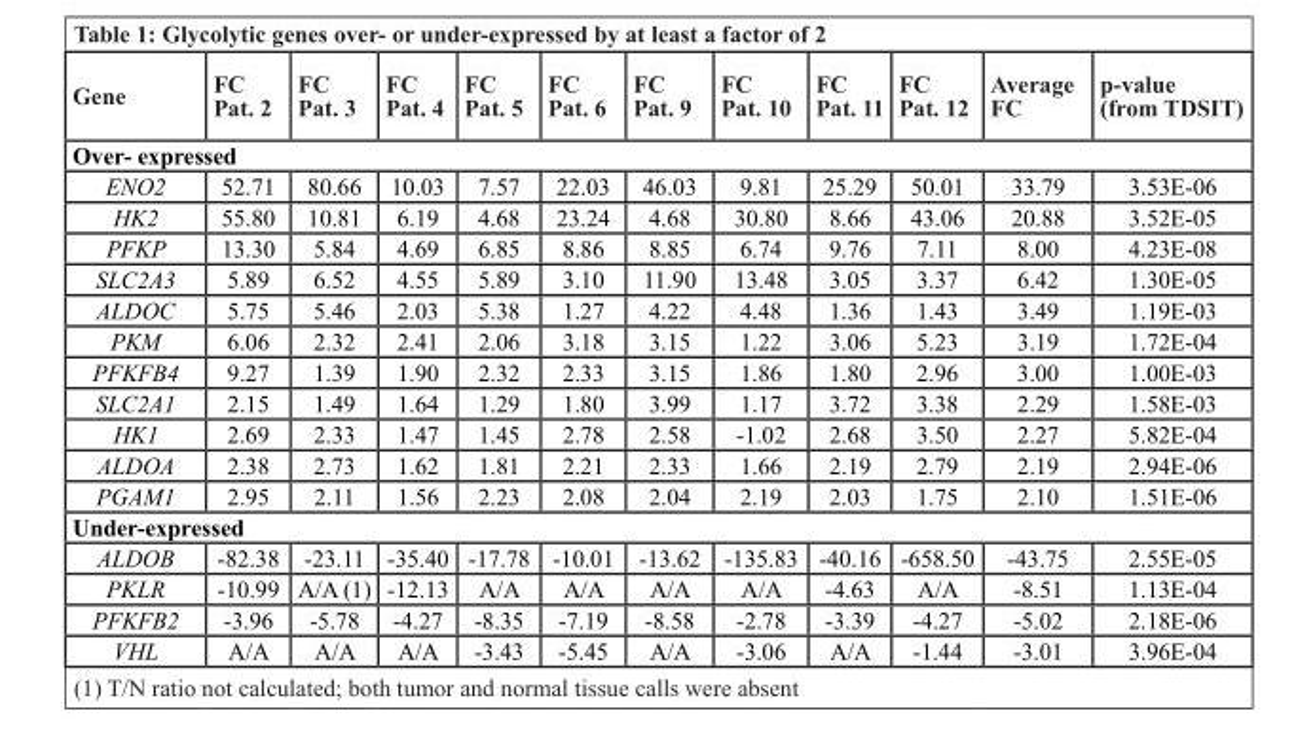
<table><thead><tr><td>Gene</td><td>FC Pat. 2</td><td>FC Pat. 3</td><td>FC Pat. 4</td><td>FC Pat. 5</td><td>FC Pat. 6</td><td>FC Pat. 9</td><td>FC Pat. 10</td><td>FC Pat. 11</td><td>FC Pat. 12</td><td>Average FC</td><td>p-value (from TDSIT)</td></tr></thead><tbody><tr><td colspan="12">Over- expressed</td></tr><tr><td>ENO2</td><td>52.71</td><td>80.66</td><td>10.03</td><td>7.57</td><td>22.03</td><td>46.03</td><td>9.81</td><td>25.29</td><td>50.01</td><td>33.79</td><td>3.53E-06</td></tr><tr><td>HK2</td><td>55.80</td><td>10.81</td><td>6.19</td><td>4.68</td><td>23.24</td><td>4.68</td><td>30.80</td><td>8.66</td><td>43.06</td><td>20.88</td><td>3.52E-05</td></tr><tr><td>PFKP</td><td>13.30</td><td>5.84</td><td>4.69</td><td>6.85</td><td>8.86</td><td>8.85</td><td>6.74</td><td>9.76</td><td>7.11</td><td>8.00</td><td>4.23E-08</td></tr><tr><td>SLC2A3</td><td>5.89</td><td>6.52</td><td>4.55</td><td>5.89</td><td>3.10</td><td>11.90</td><td>13.48</td><td>3.05</td><td>3.37</td><td>6.42</td><td>1.30E-05</td></tr><tr><td>ALDOC</td><td>5.75</td><td>5.46</td><td>2.03</td><td>5.38</td><td>1.27</td><td>4.22</td><td>4.48</td><td>1.36</td><td>1.43</td><td>3.49</td><td>1.19E-03</td></tr><tr><td>PKM</td><td>6.06</td><td>2.32</td><td>2.41</td><td>2.06</td><td>3.18</td><td>3.15</td><td>1.22</td><td>3.06</td><td>5.23</td><td>3.19</td><td>1.72E-04</td></tr><tr><td>PFKFB4</td><td>9.27</td><td>1.39</td><td>1.90</td><td>2.32</td><td>2.33</td><td>3.15</td><td>1.86</td><td>1.80</td><td>2.96</td><td>3.00</td><td>1.00E-03</td></tr><tr><td>SLC2A1</td><td>2.15</td><td>1.49</td><td>1.64</td><td>1.29</td><td>1.80</td><td>3.99</td><td>1.17</td><td>3.72</td><td>3.38</td><td>2.29</td><td>1.58E-03</td></tr><tr><td>HK1</td><td>2.69</td><td>2.33</td><td>1.47</td><td>1.45</td><td>2.78</td><td>2.58</td><td>-1.02</td><td>2.68</td><td>3.50</td><td>2.27</td><td>5.82E-04</td></tr><tr><td>ALDOA</td><td>2.38</td><td>2.73</td><td>1.62</td><td>1.81</td><td>2.21</td><td>2.33</td><td>1.66</td><td>2.19</td><td>2.79</td><td>2.19</td><td>2.94E-06</td></tr><tr><td>PGAM1</td><td>2.95</td><td>2.11</td><td>1.56</td><td>2.23</td><td>2.08</td><td>2.04</td><td>2.19</td><td>2.03</td><td>1.75</td><td>2.10</td><td>1.51E-06</td></tr><tr><td colspan="12">Under-expressed</td></tr><tr><td>ALDOB</td><td>-82.38</td><td>-23.11</td><td>-35.40</td><td>-17.78</td><td>-10.01</td><td>-13.62</td><td>-135.83</td><td>-40.16</td><td>-658.50</td><td>-43.75</td><td>2.55E-05</td></tr><tr><td>PKLR</td><td>-10.99</td><td>A/A (1)</td><td>-12.13</td><td>A/A</td><td>A/A</td><td>A/A</td><td>A/A</td><td>-4.63</td><td>A/A</td><td>-8.51</td><td>1.13E-04</td></tr><tr><td>PFKFB2</td><td>-3.96</td><td>-5.78</td><td>-4.27</td><td>-8.35</td><td>-7.19</td><td>-8.58</td><td>-2.78</td><td>-3.39</td><td>-4.27</td><td>-5.02</td><td>2.18E-06</td></tr><tr><td>VHL</td><td>A/A</td><td>A/A</td><td>A/A</td><td>-3.43</td><td>-5.45</td><td>A/A</td><td>-3.06</td><td>A/A</td><td>-1.44</td><td>-3.01</td><td>3.96E-04</td></tr></tbody></table>